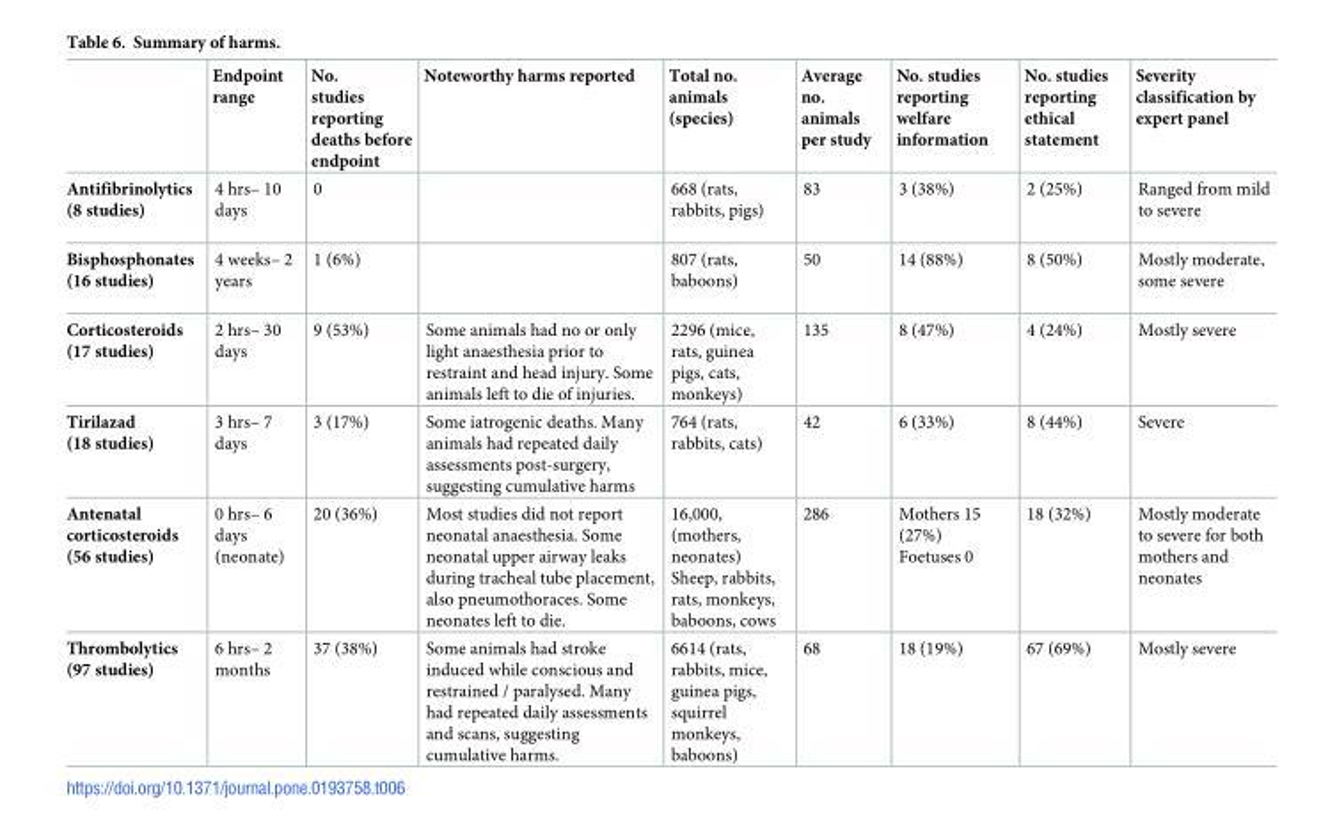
<table><thead><tr><td></td><td>Endpoint range</td><td>No. studies reporting deaths before endpoint</td><td>Noteworthy harms reported</td><td>Total no. animals (species)</td><td>Average no. animals per study</td><td>No. studies reporting welfare information</td><td>No. studies reporting ethical statement</td><td>Severity classification by expert panel</td></tr></thead><tbody><tr><td>Antifibrinolytics (8 studies)</td><td>4 hrs– 10 days</td><td>0</td><td></td><td>668 (rats, rabbits, pigs)</td><td>83</td><td>3 (38%)</td><td>2 (25%)</td><td>Ranged from mild to severe</td></tr><tr><td>Bisphosphonates (16 studies)</td><td>4 weeks– 2 years</td><td>1 (6%)</td><td></td><td>807 (rats, baboons)</td><td>50</td><td>14 (88%)</td><td>8 (50%)</td><td>Mostly moderate, some severe</td></tr><tr><td>Corticosteroids (17 studies)</td><td>2 hrs– 30 days</td><td>9 (53%)</td><td>Some animals had no or only light anaesthesia prior to restraint and head injury. Some animals left to die of injuries.</td><td>2296 (mice, rats, guinea pigs, cats, monkeys)</td><td>135</td><td>8 (47%)</td><td>4 (24%)</td><td>Mostly severe</td></tr><tr><td>Tirilazad (18 studies)</td><td>3 hrs– 7 days</td><td>3 (17%)</td><td>Some iatrogenic deaths. Many animals had repeated daily assessments post-surgery, suggesting cumulative harms</td><td>764 (rats, rabbits, cats)</td><td>42</td><td>6 (33%)</td><td>8 (44%)</td><td>Severe</td></tr><tr><td>Antenatal corticosteroids (56 studies)</td><td>0 hrs– 6 days (neonate)</td><td>20 (36%)</td><td>Most studies did not report neonatal anaesthesia. Some neonatal upper airway leaks during tracheal tube placement, also pneumothoraces. Some neonates left to die.</td><td>16,000, (mothers, neonates) Sheep, rabbits, rats, monkeys, baboons, cows</td><td>286</td><td>Mothers 15 (27%) Foetuses 0</td><td>18 (32%)</td><td>Mostly moderate to severe for both mothers and neonates</td></tr><tr><td>Thrombolytics (97 studies)</td><td>6 hrs– 2 months</td><td>37 (38%)</td><td>Some animals had stroke induced while conscious and restrained / paralysed. Many had repeated daily assessments and scans, suggesting cumulative harms.</td><td>6614 (rats, rabbits, mice, guinea pigs, squirrel monkeys, baboons)</td><td>68</td><td>18 (19%)</td><td>67 (69%)</td><td>Mostly severe</td></tr></tbody></table>